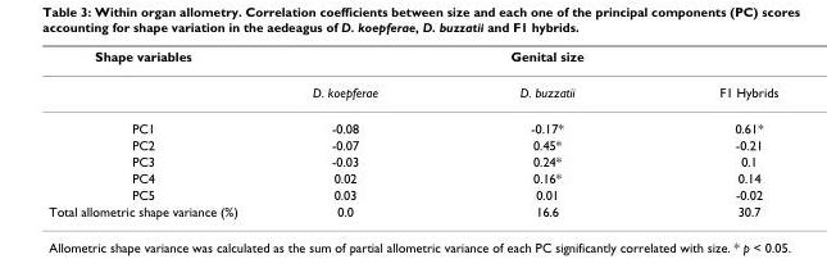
<table><thead><tr><td rowspan="2">Shape variables</td><td colspan="3">Genital size</td></tr><tr><td>D. koepferae</td><td>D. buzzatii</td><td>F1 Hybrids</td></tr></thead><tbody><tr><td>PC1</td><td>-0.08</td><td>-0.17*</td><td>0.61*</td></tr><tr><td>PC2</td><td>-0.07</td><td>0.45*</td><td>-0.21</td></tr><tr><td>PC3</td><td>-0.03</td><td>0.24*</td><td>0.1</td></tr><tr><td>PC4</td><td>0.02</td><td>0.16*</td><td>0.14</td></tr><tr><td>PC5</td><td>0.03</td><td>0.01</td><td>-0.02</td></tr><tr><td>Total allometric shape variance (%)</td><td>0.0</td><td>16.6</td><td>30.7</td></tr></tbody></table>